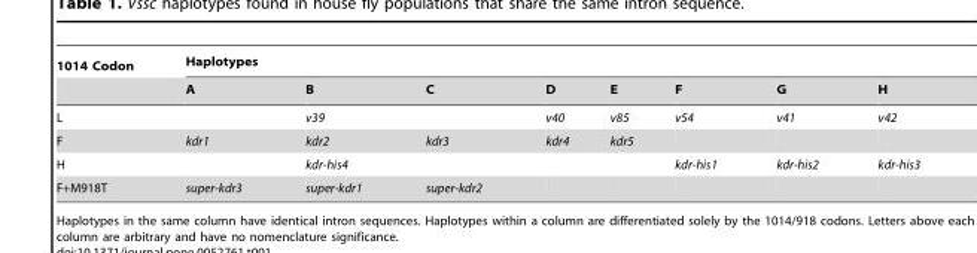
<table><thead><tr><td rowspan="2">1014 Codon</td><td colspan="8">Haplotypes</td></tr><tr><td>A</td><td>B</td><td>C</td><td>D</td><td>E</td><td>F</td><td>G</td><td>H</td></tr></thead><tbody><tr><td>L</td><td></td><td>v39</td><td></td><td>v40</td><td>v85</td><td>v54</td><td>v41</td><td>v42</td></tr><tr><td>F</td><td>kdr1</td><td>kdr2</td><td>kdr3</td><td>kdr4</td><td>kdr5</td><td></td><td></td><td></td></tr><tr><td>H</td><td></td><td>kdr-his4</td><td></td><td></td><td></td><td>kdr-his1</td><td>kdr-his2</td><td>kdr-his3</td></tr><tr><td>F+M918T</td><td>super-kdr3</td><td>super-kdr1</td><td>super-kdr2</td><td></td><td></td><td></td><td></td><td></td></tr></tbody></table>